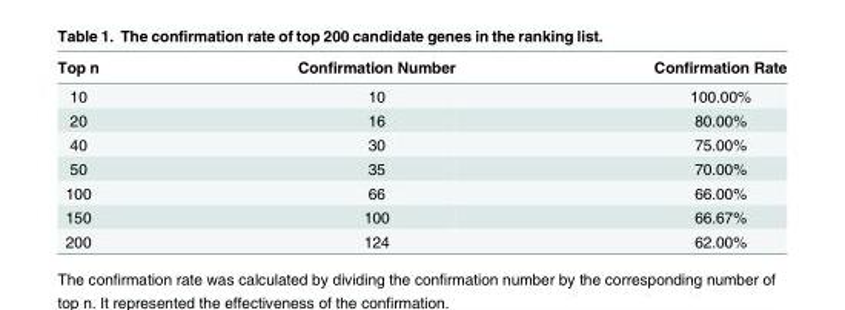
<table><thead><tr><td>Top n</td><td>Confirmation Number</td><td>Confirmation Rate</td></tr></thead><tbody><tr><td>10</td><td>10</td><td>100.00%</td></tr><tr><td>20</td><td>16</td><td>80.00%</td></tr><tr><td>40</td><td>30</td><td>75.00%</td></tr><tr><td>50</td><td>35</td><td>70.00%</td></tr><tr><td>100</td><td>66</td><td>66.00%</td></tr><tr><td>150</td><td>100</td><td>66.67%</td></tr><tr><td>200</td><td>124</td><td>62.00%</td></tr></tbody></table>